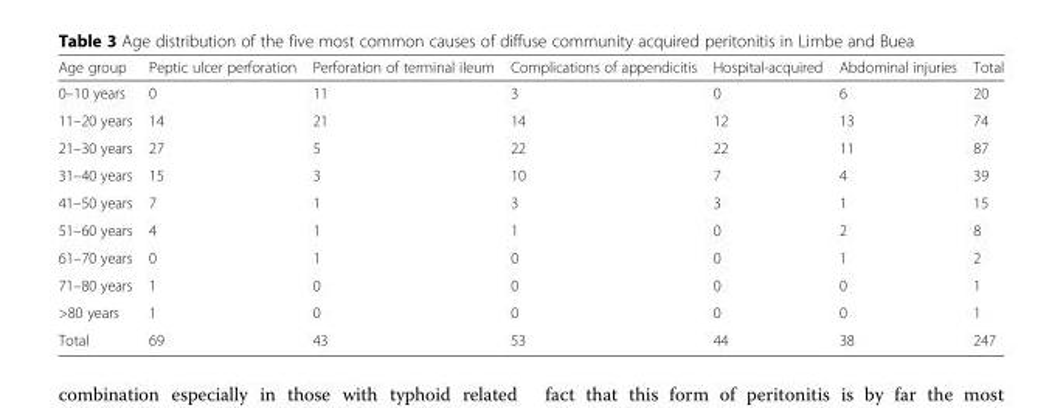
<table><thead><tr><td>Age group</td><td>Peptic ulcer perforation</td><td>Perforation of terminal ileum</td><td>Complications of appendicitis</td><td>Hospital-acquired</td><td>Abdominal injuries</td><td>Total</td></tr></thead><tbody><tr><td>0–10 years</td><td>0</td><td>11</td><td>3</td><td>0</td><td>6</td><td>20</td></tr><tr><td>11–20 years</td><td>14</td><td>21</td><td>14</td><td>12</td><td>13</td><td>74</td></tr><tr><td>21–30 years</td><td>27</td><td>5</td><td>22</td><td>22</td><td>11</td><td>87</td></tr><tr><td>31–40 years</td><td>15</td><td>3</td><td>10</td><td>7</td><td>4</td><td>39</td></tr><tr><td>41–50 years</td><td>7</td><td>1</td><td>3</td><td>3</td><td>1</td><td>15</td></tr><tr><td>51–60 years</td><td>4</td><td>1</td><td>1</td><td>0</td><td>2</td><td>8</td></tr><tr><td>61–70 years</td><td>0</td><td>1</td><td>0</td><td>0</td><td>1</td><td>2</td></tr><tr><td>71–80 years</td><td>1</td><td>0</td><td>0</td><td>0</td><td>0</td><td>1</td></tr><tr><td>&gt;80 years</td><td>1</td><td>0</td><td>0</td><td>0</td><td>0</td><td>1</td></tr><tr><td>Total</td><td>69</td><td>43</td><td>53</td><td>44</td><td>38</td><td>247</td></tr></tbody></table>